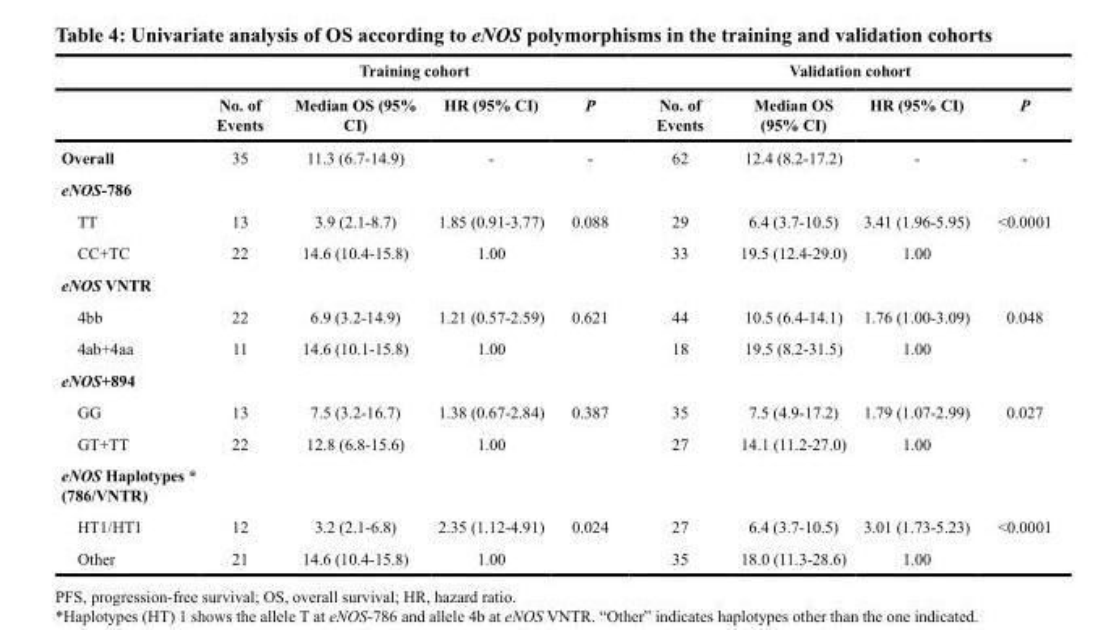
<table><thead><tr><td rowspan="2"></td><td colspan="4">Training cohort</td><td colspan="4">Validation cohort</td></tr><tr><td>No. of Events</td><td>Median OS (95% CI)</td><td>HR (95% CI)</td><td>P</td><td>No. of Events</td><td>Median OS (95% CI)</td><td>HR (95% CI)</td><td>P</td></tr></thead><tbody><tr><td>Overall</td><td>35</td><td>11.3 (6.7-14.9)</td><td>-</td><td>-</td><td>62</td><td>12.4 (8.2-17.2)</td><td>-</td><td>-</td></tr><tr><td colspan="9">eNOS-786</td></tr><tr><td>TT</td><td>13</td><td>3.9 (2.1-8.7)</td><td>1.85 (0.91-3.77)</td><td>0.088</td><td>29</td><td>6.4 (3.7-10.5)</td><td>3.41 (1.96-5.95)</td><td>&lt;0.0001</td></tr><tr><td>CC+TC</td><td>22</td><td>14.6 (10.4-15.8)</td><td>1.00</td><td></td><td>33</td><td>19.5 (12.4-29.0)</td><td>1.00</td><td></td></tr><tr><td colspan="9">eNOS VNTR</td></tr><tr><td>4bb</td><td>22</td><td>6.9 (3.2-14.9)</td><td>1.21 (0.57-2.59)</td><td>0.621</td><td>44</td><td>10.5 (6.4-14.1)</td><td>1.76 (1.00-3.09)</td><td>0.048</td></tr><tr><td>4ab+4aa</td><td>11</td><td>14.6 (10.1-15.8)</td><td>1.00</td><td></td><td>18</td><td>19.5 (8.2-31.5)</td><td>1.00</td><td></td></tr><tr><td colspan="9">eNOS+894</td></tr><tr><td>GG</td><td>13</td><td>7.5 (3.2-16.7)</td><td>1.38 (0.67-2.84)</td><td>0.387</td><td>35</td><td>7.5 (4.9-17.2)</td><td>1.79 (1.07-2.99)</td><td>0.027</td></tr><tr><td>GT+TT</td><td>22</td><td>12.8 (6.8-15.6)</td><td>1.00</td><td></td><td>27</td><td>14.1 (11.2-27.0)</td><td>1.00</td><td></td></tr><tr><td colspan="9">eNOS Haplotypes * (786/VNTR)</td></tr><tr><td>HT1/HT1</td><td>12</td><td>3.2 (2.1-6.8)</td><td>2.35 (1.12-4.91)</td><td>0.024</td><td>27</td><td>6.4 (3.7-10.5)</td><td>3.01 (1.73-5.23)</td><td>&lt;0.0001</td></tr><tr><td>Other</td><td>21</td><td>14.6 (10.4-15.8)</td><td>1.00</td><td></td><td>35</td><td>18.0 (11.3-28.6)</td><td>1.00</td><td></td></tr></tbody></table>